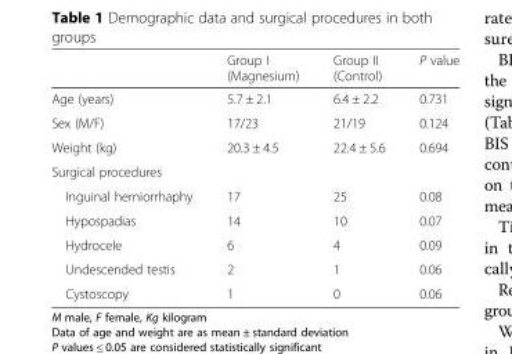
<table><thead><tr><td></td><td>Group I (Magnesium)</td><td>Group II (Control)</td><td>P value</td></tr></thead><tbody><tr><td>Age (years)</td><td>5.7 ± 2.1</td><td>6.4 ± 2.2</td><td>0.731</td></tr><tr><td>Sex (M/F)</td><td>17/23</td><td>21/19</td><td>0.124</td></tr><tr><td>Weight (kg)</td><td>20.3 ± 4.5</td><td>22.4 ± 5.6</td><td>0.694</td></tr><tr><td colspan="4">Surgical procedures</td></tr><tr><td>Inguinal herniorrhaphy</td><td>17</td><td>25</td><td>0.08</td></tr><tr><td>Hypospadias</td><td>14</td><td>10</td><td>0.07</td></tr><tr><td>Hydrocele</td><td>6</td><td>4</td><td>0.09</td></tr><tr><td>Undescended testis</td><td>2</td><td>1</td><td>0.06</td></tr><tr><td>Cystoscopy</td><td>1</td><td>0</td><td>0.06</td></tr></tbody></table>